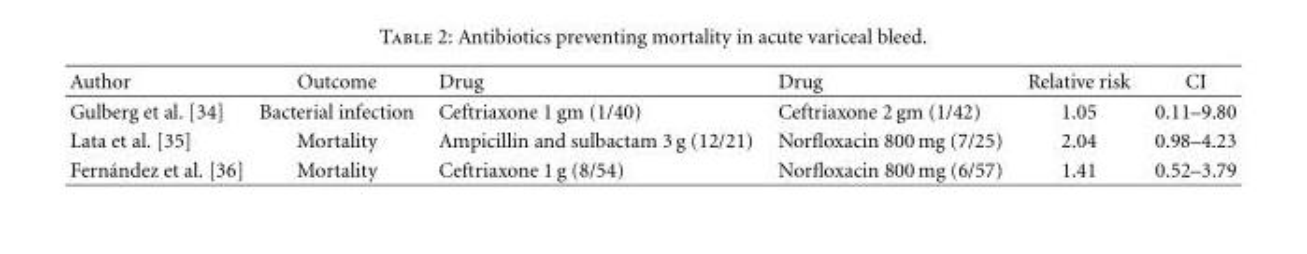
<table><thead><tr><td>Author</td><td>Outcome</td><td>Drug</td><td>Drug</td><td>Relative risk</td><td>CI</td></tr></thead><tbody><tr><td>Gulberg et al. [34]</td><td>Bacterial infection</td><td>Ceftriaxone 1 gm (1/40)</td><td>Ceftriaxone 2 gm (1/42)</td><td>1.05</td><td>0.11–9.80</td></tr><tr><td>Lata et al. [35]</td><td>Mortality</td><td>Ampicillin and sulbactam 3 g (12/21)</td><td>Norfloxacin 800 mg (7/25)</td><td>2.04</td><td>0.98–4.23</td></tr><tr><td>Fern´andez et al. [36]</td><td>Mortality</td><td>Ceftriaxone 1 g (8/54)</td><td>Norfloxacin 800 mg (6/57)</td><td>1.41</td><td>0.52–3.79</td></tr></tbody></table>